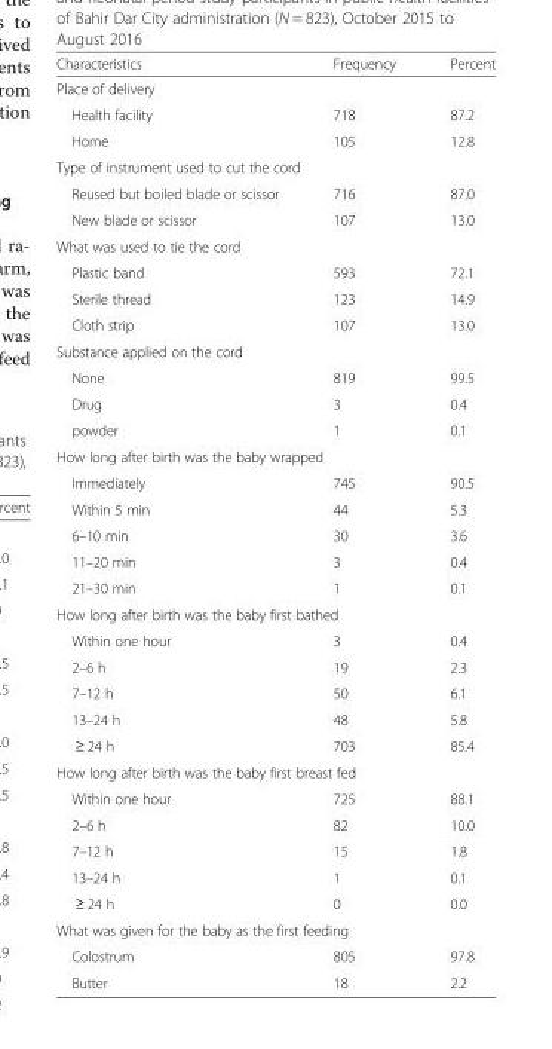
<table><thead><tr><td>Characteristics</td><td>Frequency</td><td>Percent</td></tr></thead><tbody><tr><td colspan="3">Place of delivery</td></tr><tr><td>Health facility</td><td>718</td><td>87.2</td></tr><tr><td>Home</td><td>105</td><td>12.8</td></tr><tr><td colspan="3">Type of instrument used to cut the cord</td></tr><tr><td>Reused but boiled blade or scissor</td><td>716</td><td>87.0</td></tr><tr><td>New blade or scissor</td><td>107</td><td>13.0</td></tr><tr><td colspan="3">What was used to tie the cord</td></tr><tr><td>Plastic band</td><td>593</td><td>72.1</td></tr><tr><td>Sterile thread</td><td>123</td><td>14.9</td></tr><tr><td>Cloth strip</td><td>107</td><td>13.0</td></tr><tr><td colspan="3">Substance applied on the cord</td></tr><tr><td>None</td><td>819</td><td>99.5</td></tr><tr><td>Drug</td><td>3</td><td>0.4</td></tr><tr><td>powder</td><td>1</td><td>0.1</td></tr><tr><td colspan="3">How long after birth was the baby wrapped</td></tr><tr><td>Immediately</td><td>745</td><td>90.5</td></tr><tr><td>Within 5 min</td><td>44</td><td>5.3</td></tr><tr><td>6–10 min</td><td>30</td><td>3.6</td></tr><tr><td>11–20 min</td><td>3</td><td>0.4</td></tr><tr><td>21–30 min</td><td>1</td><td>0.1</td></tr><tr><td colspan="3">How long after birth was the baby first bathed</td></tr><tr><td>Within one hour</td><td>3</td><td>0.4</td></tr><tr><td>2–6 h</td><td>19</td><td>2.3</td></tr><tr><td>7–12 h</td><td>50</td><td>6.1</td></tr><tr><td>13–24 h</td><td>48</td><td>5.8</td></tr><tr><td>≥ 24 h</td><td>703</td><td>85.4</td></tr><tr><td colspan="3">How long after birth was the baby first breast fed</td></tr><tr><td>Within one hour</td><td>725</td><td>88.1</td></tr><tr><td>2–6 h</td><td>82</td><td>10.0</td></tr><tr><td>7–12 h</td><td>15</td><td>1.8</td></tr><tr><td>13–24 h</td><td>1</td><td>0.1</td></tr><tr><td>≥ 24 h</td><td>0</td><td>0.0</td></tr><tr><td colspan="3">What was given for the baby as the first feeding</td></tr><tr><td>Colostrum</td><td>805</td><td>97.8</td></tr><tr><td>Butter</td><td>18</td><td>2.2</td></tr></tbody></table>